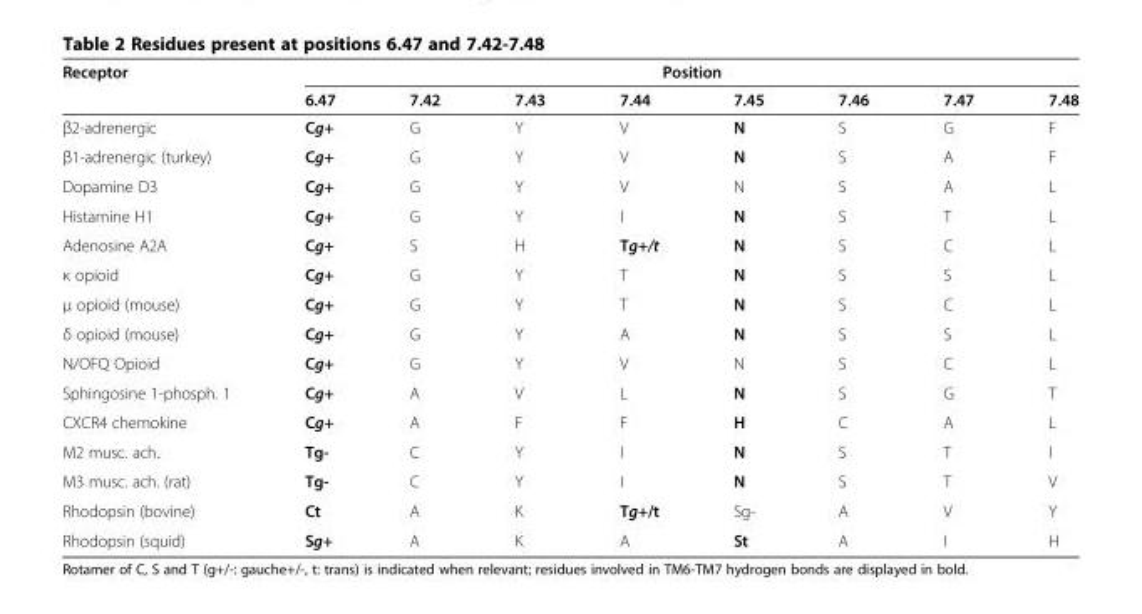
<table><thead><tr><td rowspan="2">Receptor</td><td colspan="8">Position</td></tr><tr><td>6.47</td><td>7.42</td><td>7.43</td><td>7.44</td><td>7.45</td><td>7.46</td><td>7.47</td><td>7.48</td></tr></thead><tbody><tr><td>β2-adrenergic</td><td>Cg+</td><td>G</td><td>Y</td><td>V</td><td>N</td><td>S</td><td>G</td><td>F</td></tr><tr><td>β1-adrenergic (turkey)</td><td>Cg+</td><td>G</td><td>Y</td><td>V</td><td>N</td><td>S</td><td>A</td><td>F</td></tr><tr><td>Dopamine D3</td><td>Cg+</td><td>G</td><td>Y</td><td>V</td><td>N</td><td>S</td><td>A</td><td>L</td></tr><tr><td>Histamine H1</td><td>Cg+</td><td>G</td><td>Y</td><td>I</td><td>N</td><td>S</td><td>T</td><td>L</td></tr><tr><td>Adenosine A2A</td><td>Cg+</td><td>S</td><td>H</td><td>Tg+/t</td><td>N</td><td>S</td><td>C</td><td>L</td></tr><tr><td>κ opioid</td><td>Cg+</td><td>G</td><td>Y</td><td>T</td><td>N</td><td>S</td><td>S</td><td>L</td></tr><tr><td>μ opioid (mouse)</td><td>Cg+</td><td>G</td><td>Y</td><td>T</td><td>N</td><td>S</td><td>C</td><td>L</td></tr><tr><td>δ opioid (mouse)</td><td>Cg+</td><td>G</td><td>Y</td><td>A</td><td>N</td><td>S</td><td>S</td><td>L</td></tr><tr><td>N/OFQ Opioid</td><td>Cg+</td><td>G</td><td>Y</td><td>V</td><td>N</td><td>S</td><td>C</td><td>L</td></tr><tr><td>Sphingosine 1-phosph. 1</td><td>Cg+</td><td>A</td><td>V</td><td>L</td><td>N</td><td>S</td><td>G</td><td>T</td></tr><tr><td>CXCR4 chemokine</td><td>Cg+</td><td>A</td><td>F</td><td>F</td><td>H</td><td>C</td><td>A</td><td>L</td></tr><tr><td>M2 musc. ach.</td><td>Tg-</td><td>C</td><td>Y</td><td>I</td><td>N</td><td>S</td><td>T</td><td>I</td></tr><tr><td>M3 musc. ach. (rat)</td><td>Tg-</td><td>C</td><td>Y</td><td>I</td><td>N</td><td>S</td><td>T</td><td>V</td></tr><tr><td>Rhodopsin (bovine)</td><td>Ct</td><td>A</td><td>K</td><td>Tg+/t</td><td>Sg-</td><td>A</td><td>V</td><td>Y</td></tr><tr><td>Rhodopsin (squid)</td><td>Sg+</td><td>A</td><td>K</td><td>A</td><td>St</td><td>A</td><td>I</td><td>H</td></tr></tbody></table>